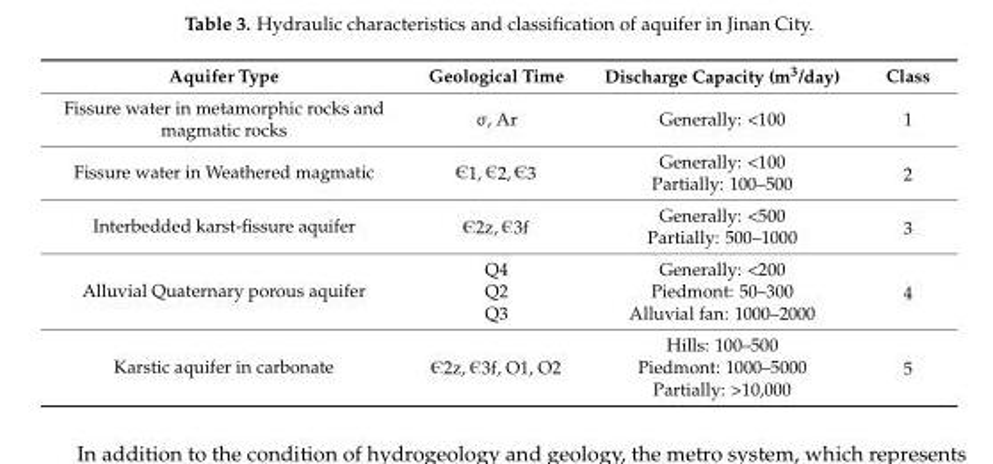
<table><thead><tr><td>Aquifer Type</td><td>Geological Time</td><td>Discharge Capacity (m3/day)</td><td>Class</td></tr></thead><tbody><tr><td>Fissure water in metamorphic rocks and magmatic rocks</td><td>σ, Ar</td><td>Generally: &lt;100</td><td>1</td></tr><tr><td rowspan="2">Fissure water in Weathered magmatic</td><td rowspan="2">1, 2, 3</td><td>Generally: &lt;100</td><td rowspan="2">2</td></tr><tr><td>Partially: 100–500</td></tr><tr><td rowspan="2">Interbedded karst-fissure aquifer</td><td rowspan="2">2z, 3f</td><td>Generally: &lt;500</td><td rowspan="2">3</td></tr><tr><td>Partially: 500–1000</td></tr><tr><td rowspan="3">Alluvial Quaternary porous aquifer</td><td>Q4</td><td>Generally: &lt;200</td><td rowspan="3">4</td></tr><tr><td>Q2</td><td>Piedmont: 50–300</td></tr><tr><td>Q3</td><td>Alluvial fan: 1000–2000</td></tr><tr><td rowspan="3">Karstic aquifer in carbonate</td><td rowspan="3">2z, 3f, O1, O2</td><td>Hills: 100–500</td><td rowspan="3">5</td></tr><tr><td>Piedmont: 1000–5000</td></tr><tr><td>Partially: &gt;10,000</td></tr></tbody></table>